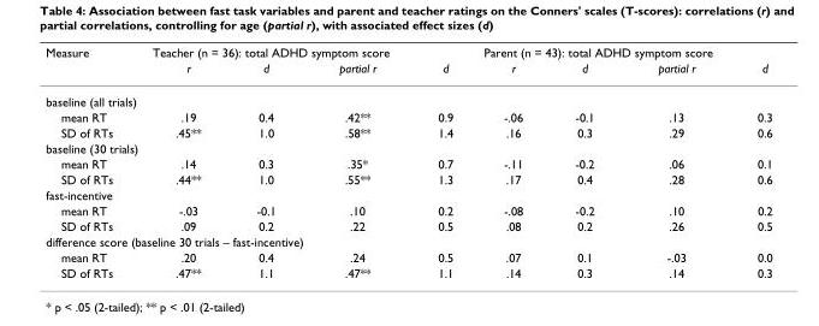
<table><thead><tr><td rowspan="2">Measure</td><td colspan="4">Teacher (n = 36): total ADHD symptom score</td><td colspan="4">Parent (n = 43): total ADHD symptom score</td></tr><tr><td>r</td><td>d</td><td>partial r</td><td>d</td><td>r</td><td>d</td><td>partial r</td><td>d</td></tr></thead><tbody><tr><td colspan="9">baseline (all trials)</td></tr><tr><td>mean RT</td><td>.19</td><td>0.4</td><td>.42**</td><td>0.9</td><td>-.06</td><td>-0.1</td><td>.13</td><td>0.3</td></tr><tr><td>SD of RTs</td><td>.45**</td><td>1.0</td><td>.58**</td><td>1.4</td><td>.16</td><td>0.3</td><td>.29</td><td>0.6</td></tr><tr><td colspan="9">baseline (30 trials)</td></tr><tr><td>mean RT</td><td>.14</td><td>0.3</td><td>.35*</td><td>0.7</td><td>-.11</td><td>-0.2</td><td>.06</td><td>0.1</td></tr><tr><td>SD of RTs</td><td>.44**</td><td>1.0</td><td>.55**</td><td>1.3</td><td>.17</td><td>0.4</td><td>.28</td><td>0.6</td></tr><tr><td colspan="9">fast-incentive</td></tr><tr><td>mean RT</td><td>-.03</td><td>-0.1</td><td>.10</td><td>0.2</td><td>-.08</td><td>-0.2</td><td>.10</td><td>0.2</td></tr><tr><td>SD of RTs</td><td>.09</td><td>0.2</td><td>.22</td><td>0.5</td><td>.08</td><td>0.2</td><td>.26</td><td>0.5</td></tr><tr><td colspan="9">difference score (baseline 30 trials – fast-incentive)</td></tr><tr><td>mean RT</td><td>.20</td><td>0.4</td><td>.24</td><td>0.5</td><td>.07</td><td>0.1</td><td>-.03</td><td>0.0</td></tr><tr><td>SD of RTs</td><td>.47**</td><td>1.1</td><td>.47**</td><td>1.1</td><td>.14</td><td>0.3</td><td>.14</td><td>0.3</td></tr></tbody></table>